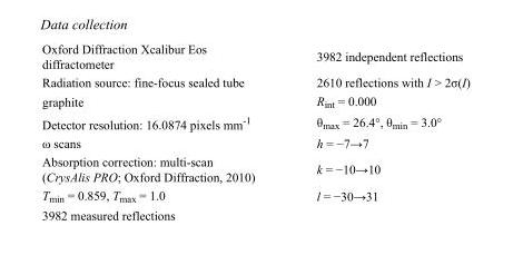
<table><tbody><tr><td>Oxford Diffraction Xcalibur Eos diffractometer</td><td>3982 independent reflections</td></tr><tr><td>Radiation source: fine-focus sealed tube</td><td>2610 reflections with I &gt; 2σ(I)</td></tr><tr><td>graphite</td><td>R<sub>int</sub> = 0.000</td></tr><tr><td>Detector resolution: 16.0874 pixels mm<sup>-1</sup></td><td>θ<sub>max</sub> = 26.4°, θ<sub>min</sub> = 3.0°</td></tr><tr><td>ω scans</td><td>h = −7→7</td></tr><tr><td>Absorption correction: multi-scan (CrysAlis PRO; Oxford Diffraction, 2010)</td><td>k = −10→10</td></tr><tr><td>T<sub>min</sub> = 0.859, T<sub>max</sub> = 1.0</td><td>l = −30→31</td></tr><tr><td>3982 measured reflections</td><td></td></tr></tbody></table>